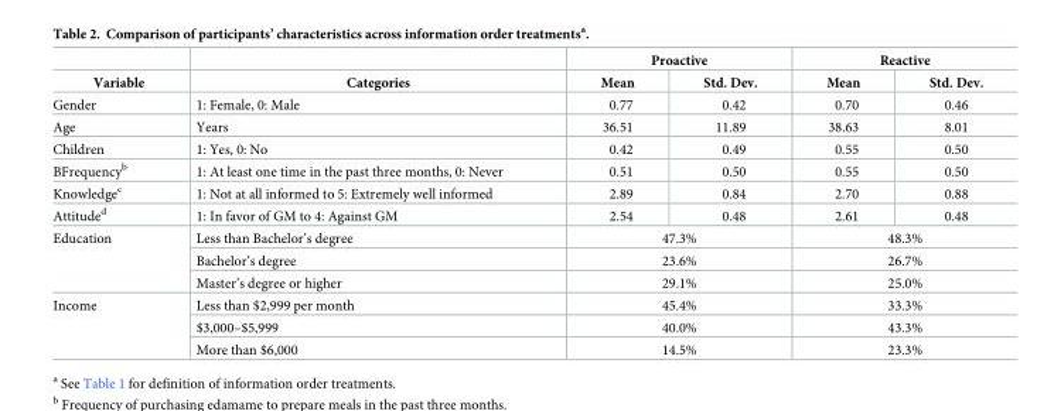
<table><thead><tr><td rowspan="2">Variable</td><td rowspan="2">Categories</td><td colspan="2">Proactive</td><td colspan="2">Reactive</td></tr><tr><td>Mean</td><td>Std. Dev.</td><td>Mean</td><td>Std. Dev.</td></tr></thead><tbody><tr><td>Gender</td><td>1: Female, 0: Male</td><td>0.77</td><td>0.42</td><td>0.70</td><td>0.46</td></tr><tr><td>Age</td><td>Years</td><td>36.51</td><td>11.89</td><td>38.63</td><td>8.01</td></tr><tr><td>Children</td><td>1: Yes, 0: No</td><td>0.42</td><td>0.49</td><td>0.55</td><td>0.50</td></tr><tr><td>BFrequency<sup>b</sup></td><td>1: At least one time in the past three months, 0: Never</td><td>0.51</td><td>0.50</td><td>0.55</td><td>0.50</td></tr><tr><td>Knowledge<sup>c</sup></td><td>1: Not at all informed to 5: Extremely well informed</td><td>2.89</td><td>0.84</td><td>2.70</td><td>0.88</td></tr><tr><td>Attitude<sup>d</sup></td><td>1: In favor of GM to 4: Against GM</td><td>2.54</td><td>0.48</td><td>2.61</td><td>0.48</td></tr><tr><td rowspan="3">Education</td><td>Less than Bachelor’s degree</td><td colspan="2">47.3%</td><td colspan="2">48.3%</td></tr><tr><td>Bachelor’s degree</td><td colspan="2">23.6%</td><td colspan="2">26.7%</td></tr><tr><td>Master’s degree or higher</td><td colspan="2">29.1%</td><td colspan="2">25.0%</td></tr><tr><td rowspan="3">Income</td><td>Less than $2,999 per month</td><td colspan="2">45.4%</td><td colspan="2">33.3%</td></tr><tr><td>$3,000–$5,999</td><td colspan="2">40.0%</td><td colspan="2">43.3%</td></tr><tr><td>More than $6,000</td><td colspan="2">14.5%</td><td colspan="2">23.3%</td></tr></tbody></table>